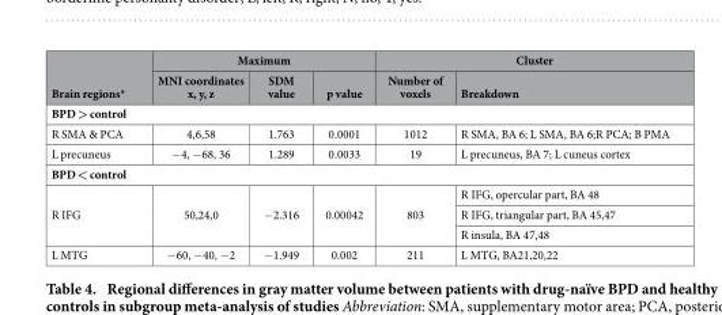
<table><thead><tr><td rowspan="2">Brain regions*</td><td colspan="3">Maximum</td><td colspan="2">Cluster</td></tr><tr><td>MNI coordinates x, y, z</td><td>SDM value</td><td>p value</td><td>Number of voxels</td><td>Breakdown</td></tr></thead><tbody><tr><td colspan="6">BPD &gt; control</td></tr><tr><td>R SMA &amp; PCA</td><td>4,6,58</td><td>1.763</td><td>0.0001</td><td>1012</td><td>R SMA, BA 6; L SMA, BA 6;R PCA; B PMA</td></tr><tr><td>L precuneus</td><td>− 4, − 68, 36</td><td>1.289</td><td>0.0033</td><td>19</td><td>L precuneus, BA 7; L cuneus cortex</td></tr><tr><td colspan="6">BPD &lt; control</td></tr><tr><td rowspan="3">R IFG</td><td rowspan="3">50,24,0</td><td rowspan="3">− 2.316</td><td rowspan="3">0.00042</td><td rowspan="3">803</td><td>R IFG, opercular part, BA 48</td></tr><tr><td>R IFG, triangular part, BA 45,47</td></tr><tr><td>R insula, BA 47,48</td></tr><tr><td>L MTG</td><td>− 60, − 40, − 2</td><td>− 1.949</td><td>0.002</td><td>211</td><td>L MTG, BA21,20,22</td></tr></tbody></table>